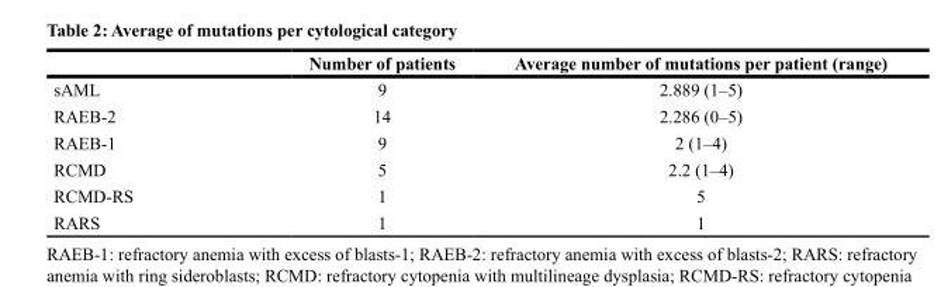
<table><thead><tr><td></td><td>Number of patients</td><td>Average number of mutations per patient (range)</td></tr></thead><tbody><tr><td>sAML</td><td>9</td><td>2.889 (1–5)</td></tr><tr><td>RAEB-2</td><td>14</td><td>2.286 (0–5)</td></tr><tr><td>RAEB-1</td><td>9</td><td>2 (1–4)</td></tr><tr><td>RCMD</td><td>5</td><td>2.2 (1–4)</td></tr><tr><td>RCMD-RS</td><td>1</td><td>5</td></tr><tr><td>RARS</td><td>1</td><td>1</td></tr></tbody></table>